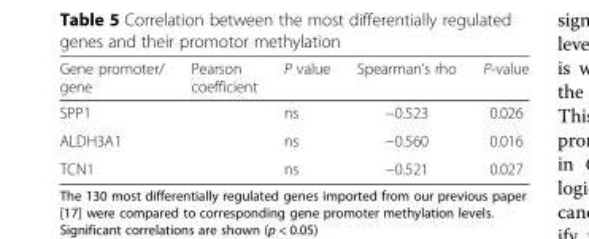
<table><thead><tr><td>Gene promoter/ gene</td><td>Pearson coefficient</td><td>P value</td><td>Spearman’s rho</td><td>P-value</td></tr></thead><tbody><tr><td>SPP1</td><td></td><td>ns</td><td>−0.523</td><td>0.026</td></tr><tr><td>ALDH3A1</td><td></td><td>ns</td><td>−0.560</td><td>0.016</td></tr><tr><td>TCN1</td><td></td><td>ns</td><td>−0.521</td><td>0.027</td></tr></tbody></table>